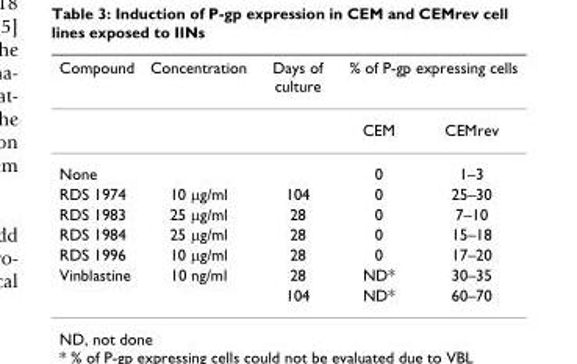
<table><thead><tr><td rowspan="2">Compound</td><td rowspan="2">Concentration</td><td rowspan="2">Days of culture</td><td colspan="2">% of P-gp expressing cells</td></tr><tr><td>CEM</td><td>CEMrev</td></tr></thead><tbody><tr><td>None</td><td></td><td></td><td>0</td><td>1–3</td></tr><tr><td>RDS 1974</td><td>10 µg/ml</td><td>104</td><td>0</td><td>25–30</td></tr><tr><td>RDS 1983</td><td>25 µg/ml</td><td>28</td><td>0</td><td>7–10</td></tr><tr><td>RDS 1984</td><td>25 µg/ml</td><td>28</td><td>0</td><td>15–18</td></tr><tr><td>RDS 1996</td><td>10 µg/ml</td><td>28</td><td>0</td><td>17–20</td></tr><tr><td rowspan="2">Vinblastine</td><td>10 ng/ml</td><td>28</td><td>ND*</td><td>30–35</td></tr><tr><td></td><td>104</td><td>ND*</td><td>60–70</td></tr></tbody></table>